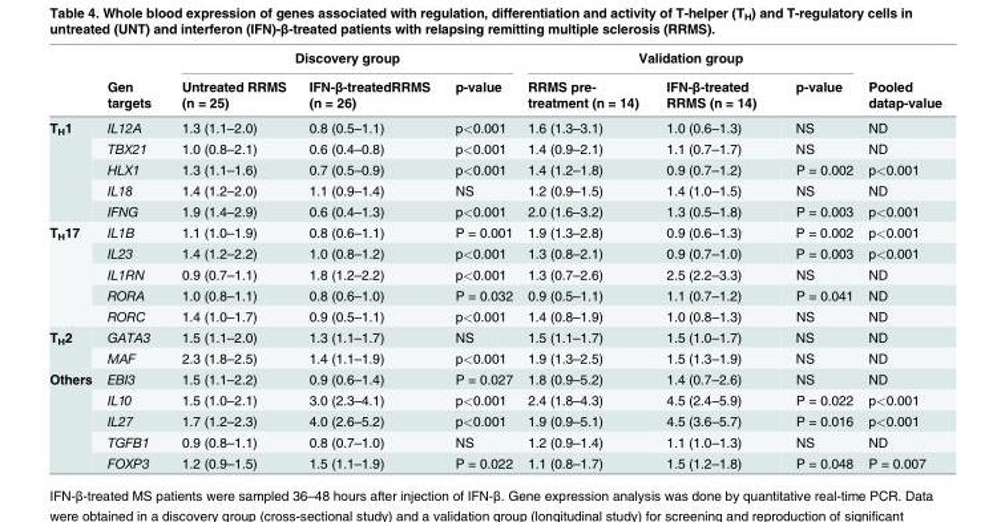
<table><thead><tr><td rowspan="2"></td><td rowspan="2">Gen targets</td><td colspan="3">Discovery group</td><td colspan="3">Validation group</td><td rowspan="2">Pooled datap-value</td></tr><tr><td>Untreated RRMS (n = 25)</td><td>IFN-β-treatedRRMS (n = 26)</td><td>p-value</td><td>RRMS pre- treatment (n = 14)</td><td>IFN-β-treated RRMS (n = 14)</td><td>p-value</td></tr></thead><tbody><tr><td rowspan="5">T<sub>H</sub>1</td><td>IL12A</td><td>1.3 (1.1–2.0)</td><td>0.8 (0.5–1.1)</td><td>p&lt;0.001</td><td>1.6 (1.3–3.1)</td><td>1.0 (0.6–1.3)</td><td>NS</td><td>ND</td></tr><tr><td>TBX21</td><td>1.0 (0.8–2.1)</td><td>0.6 (0.4–0.8)</td><td>p&lt;0.001</td><td>1.4 (0.9–2.1)</td><td>1.1 (0.7–1.7)</td><td>NS</td><td>ND</td></tr><tr><td>HLX1</td><td>1.3 (1.1–1.6)</td><td>0.7 (0.5–0.9)</td><td>p&lt;0.001</td><td>1.4 (1.2–1.8)</td><td>0.9 (0.7–1.2)</td><td>P = 0.002</td><td>p&lt;0.001</td></tr><tr><td>IL18</td><td>1.4 (1.2–2.0)</td><td>1.1 (0.9–1.4)</td><td>NS</td><td>1.2 (0.9–1.5)</td><td>1.4 (1.0–1.5)</td><td>NS</td><td>ND</td></tr><tr><td>IFNG</td><td>1.9 (1.4–2.9)</td><td>0.6 (0.4–1.3)</td><td>p&lt;0.001</td><td>2.0 (1.6–3.2)</td><td>1.3 (0.5–1.8)</td><td>P = 0.003</td><td>p&lt;0.001</td></tr><tr><td rowspan="5">T<sub>H</sub>17</td><td>IL1B</td><td>1.1 (1.0–1.9)</td><td>0.8 (0.6–1.1)</td><td>P = 0.001</td><td>1.9 (1.3–2.8)</td><td>0.9 (0.6–1.3)</td><td>P = 0.002</td><td>p&lt;0.001</td></tr><tr><td>IL23</td><td>1.4 (1.2–2.2)</td><td>1.0 (0.8–1.2)</td><td>p&lt;0.001</td><td>1.3 (0.8–2.1)</td><td>0.9 (0.7–1.0)</td><td>P = 0.003</td><td>p&lt;0.001</td></tr><tr><td>IL1RN</td><td>0.9 (0.7–1.1)</td><td>1.8 (1.2–2.2)</td><td>p&lt;0.001</td><td>1.3 (0.7–2.6)</td><td>2.5 (2.2–3.3)</td><td>NS</td><td>ND</td></tr><tr><td>RORA</td><td>1.0 (0.8–1.1)</td><td>0.8 (0.6–1.0)</td><td>P = 0.032</td><td>0.9 (0.5–1.1)</td><td>1.1 (0.7–1.2)</td><td>P = 0.041</td><td>ND</td></tr><tr><td>RORC</td><td>1.4 (1.0–1.7)</td><td>0.9 (0.5–1.1)</td><td>p&lt;0.001</td><td>1.4 (0.8–1.9)</td><td>1.0 (0.8–1.3)</td><td>NS</td><td>ND</td></tr><tr><td rowspan="2">T<sub>H</sub>2</td><td>GATA3</td><td>1.5 (1.1–2.0)</td><td>1.3 (1.1–1.7)</td><td>NS</td><td>1.5 (1.1–1.7)</td><td>1.5 (1.0–1.7)</td><td>NS</td><td>ND</td></tr><tr><td>MAF</td><td>2.3 (1.8–2.5)</td><td>1.4 (1.1–1.9)</td><td>p&lt;0.001</td><td>1.9 (1.3–2.5)</td><td>1.5 (1.3–1.9)</td><td>NS</td><td>ND</td></tr><tr><td rowspan="5">Others</td><td>EBI3</td><td>1.5 (1.1–2.2)</td><td>0.9 (0.6–1.4)</td><td>P = 0.027</td><td>1.8 (0.9–5.2)</td><td>1.4 (0.7–2.6)</td><td>NS</td><td>ND</td></tr><tr><td>IL10</td><td>1.5 (1.0–2.1)</td><td>3.0 (2.3–4.1)</td><td>p&lt;0.001</td><td>2.4 (1.8–4.3)</td><td>4.5 (2.4–5.9)</td><td>P = 0.022</td><td>p&lt;0.001</td></tr><tr><td>IL27</td><td>1.7 (1.2–2.3)</td><td>4.0 (2.6–5.2)</td><td>p&lt;0.001</td><td>1.9 (0.9–5.1)</td><td>4.5 (3.6–5.7)</td><td>P = 0.016</td><td>p&lt;0.001</td></tr><tr><td>TGFB1</td><td>0.9 (0.8–1.1)</td><td>0.8 (0.7–1.0)</td><td>NS</td><td>1.2 (0.9–1.4)</td><td>1.1 (1.0–1.3)</td><td>NS</td><td>ND</td></tr><tr><td>FOXP3</td><td>1.2 (0.9–1.5)</td><td>1.5 (1.1–1.9)</td><td>P = 0.022</td><td>1.1 (0.8–1.7)</td><td>1.5 (1.2–1.8)</td><td>P = 0.048</td><td>P = 0.007</td></tr></tbody></table>